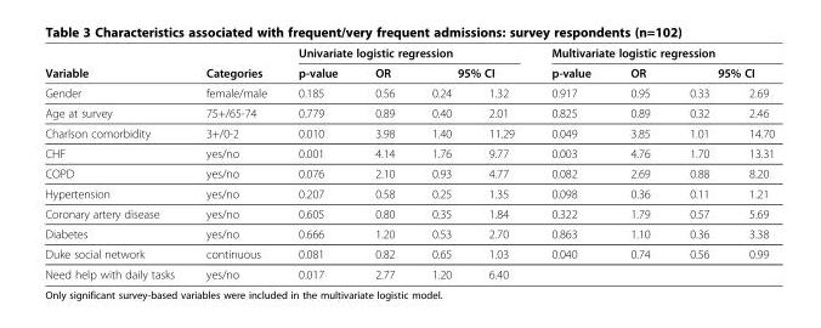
<table><thead><tr><td rowspan="3">Variable Gender</td><td rowspan="3">Categories female/male</td><td colspan="4">Univariate logistic regression</td><td colspan="4">Multivariate logistic regression</td></tr><tr><td rowspan="2">p-value 0.185</td><td rowspan="2">OR 0.56</td><td colspan="2">95% CI</td><td rowspan="2">p-value 0.917</td><td rowspan="2">OR 0.95</td><td colspan="2">95% CI</td></tr><tr><td>0.24</td><td>1.32</td><td>0.33</td><td>2.69</td></tr></thead><tbody><tr><td>Age at survey</td><td>75+/65-74</td><td>0.779</td><td>0.89</td><td>0.40</td><td>2.01</td><td>0.825</td><td>0.89</td><td>0.32</td><td>2.46</td></tr><tr><td>Charlson comorbidity</td><td>3+/0-2</td><td>0.010</td><td>3.98</td><td>1.40</td><td>11.29</td><td>0.049</td><td>3.85</td><td>1.01</td><td>14.70</td></tr><tr><td>CHF</td><td>yes/no</td><td>0.001</td><td>4.14</td><td>1.76</td><td>9.77</td><td>0.003</td><td>4.76</td><td>1.70</td><td>13.31</td></tr><tr><td>COPD</td><td>yes/no</td><td>0.076</td><td>2.10</td><td>0.93</td><td>4.77</td><td>0.082</td><td>2.69</td><td>0.88</td><td>8.20</td></tr><tr><td>Hypertension</td><td>yes/no</td><td>0.207</td><td>0.58</td><td>0.25</td><td>1.35</td><td>0.098</td><td>0.36</td><td>0.11</td><td>1.21</td></tr><tr><td>Coronary artery disease</td><td>yes/no</td><td>0.605</td><td>0.80</td><td>0.35</td><td>1.84</td><td>0.322</td><td>1.79</td><td>0.57</td><td>5.69</td></tr><tr><td>Diabetes</td><td>yes/no</td><td>0.666</td><td>1.20</td><td>0.53</td><td>2.70</td><td>0.863</td><td>1.10</td><td>0.36</td><td>3.38</td></tr><tr><td>Duke social network</td><td>continuous</td><td>0.081</td><td>0.82</td><td>0.65</td><td>1.03</td><td>0.040</td><td>0.74</td><td>0.56</td><td>0.99</td></tr><tr><td>Need help with daily tasks</td><td>yes/no</td><td>0.017</td><td>2.77</td><td>1.20</td><td>6.40</td><td></td><td></td><td></td><td></td></tr></tbody></table>